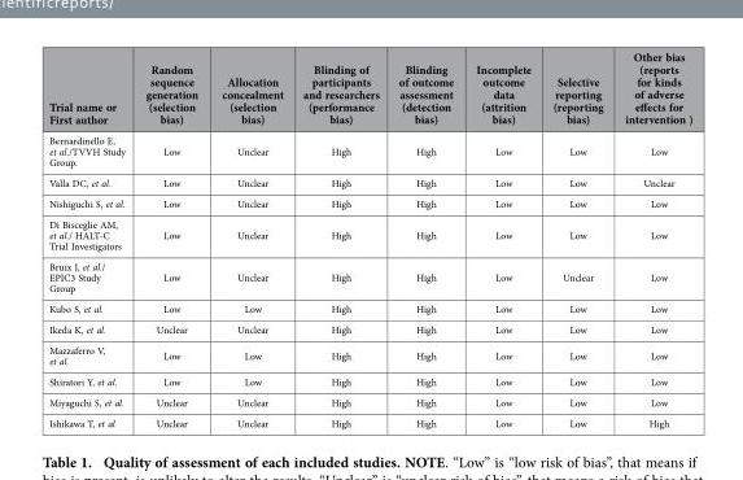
<table><thead><tr><td>Trial name or First author</td><td>Random sequence generation (selection bias)</td><td>Allocation concealment (selection bias)</td><td>Blinding of participants and researchers (performance bias)</td><td>Blinding of outcome assessment (detection bias)</td><td>Incomplete outcome data (attrition bias)</td><td>Selective reporting (reporting bias)</td><td>Other bias (reports for kinds of adverse effects for intervention )</td></tr></thead><tbody><tr><td>Bernardinello E, et al./TVVH Study Group.</td><td>Low</td><td>Unclear</td><td>High</td><td>High</td><td>Low</td><td>Low</td><td>Low</td></tr><tr><td>Valla DC, et al.</td><td>Low</td><td>Unclear</td><td>High</td><td>High</td><td>Low</td><td>Low</td><td>Unclear</td></tr><tr><td>Nishiguchi S, et al.</td><td>Low</td><td>Unclear</td><td>High</td><td>High</td><td>Low</td><td>Low</td><td>Low</td></tr><tr><td>Di Bisceglie AM, et al./ HALT-C Trial Investigators</td><td>Low</td><td>Unclear</td><td>High</td><td>High</td><td>Low</td><td>Low</td><td>Low</td></tr><tr><td>Bruix J, et al./ EPIC3 Study Group</td><td>Low</td><td>Unclear</td><td>High</td><td>High</td><td>Low</td><td>Unclear</td><td>Low</td></tr><tr><td>Kubo S, et al.</td><td>Low</td><td>Low</td><td>High</td><td>High</td><td>Low</td><td>Low</td><td>Low</td></tr><tr><td>Ikeda K, et al.</td><td>Unclear</td><td>Unclear</td><td>High</td><td>High</td><td>Low</td><td>Low</td><td>Low</td></tr><tr><td>Mazzaferro V, et al.</td><td>Low</td><td>Low</td><td>High</td><td>High</td><td>Low</td><td>Low</td><td>Low</td></tr><tr><td>Shiratori Y, et al.</td><td>Low</td><td>Low</td><td>High</td><td>High</td><td>Low</td><td>Low</td><td>Low</td></tr><tr><td>Miyaguchi S, et al.</td><td>Unclear</td><td>Unclear</td><td>High</td><td>High</td><td>Low</td><td>Low</td><td>Low</td></tr><tr><td>Ishikawa T, et al</td><td>Unclear</td><td>Unclear</td><td>High</td><td>High</td><td>Low</td><td>Low</td><td>High</td></tr></tbody></table>